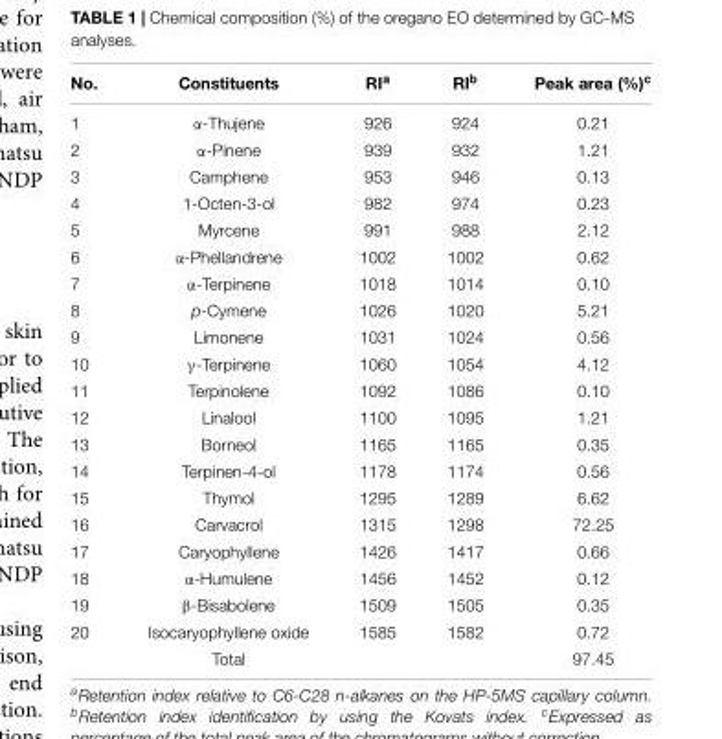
<table><thead><tr><td>No.</td><td>Constituents</td><td>RI<sup>a</sup></td><td>RI<sup>b</sup></td><td>Peak area (%)<sup>c</sup></td></tr></thead><tbody><tr><td>1</td><td>α-Thujene</td><td>926</td><td>924</td><td>0.21</td></tr><tr><td>2</td><td>α-Pinene</td><td>939</td><td>932</td><td>1.21</td></tr><tr><td>3</td><td>Camphene</td><td>953</td><td>946</td><td>0.13</td></tr><tr><td>4</td><td>1-Octen-3-ol</td><td>982</td><td>974</td><td>0.23</td></tr><tr><td>5</td><td>Myrcene</td><td>991</td><td>988</td><td>2.12</td></tr><tr><td>6</td><td>α-Phellandrene</td><td>1002</td><td>1002</td><td>0.62</td></tr><tr><td>7</td><td>α-Terpinene</td><td>1018</td><td>1014</td><td>0.10</td></tr><tr><td>8</td><td>p-Cymene</td><td>1026</td><td>1020</td><td>5.21</td></tr><tr><td>9</td><td>Limonene</td><td>1031</td><td>1024</td><td>0.56</td></tr><tr><td>10</td><td>γ-Terpinene</td><td>1060</td><td>1054</td><td>4.12</td></tr><tr><td>11</td><td>Terpinolene</td><td>1092</td><td>1086</td><td>0.10</td></tr><tr><td>12</td><td>Linalool</td><td>1100</td><td>1095</td><td>1.21</td></tr><tr><td>13</td><td>Borneol</td><td>1165</td><td>1165</td><td>0.35</td></tr><tr><td>14</td><td>Terpinen-4-ol</td><td>1178</td><td>1174</td><td>0.56</td></tr><tr><td>15</td><td>Thymol</td><td>1295</td><td>1289</td><td>6.62</td></tr><tr><td>16</td><td>Carvacrol</td><td>1315</td><td>1298</td><td>72.25</td></tr><tr><td>17</td><td>Caryophyllene</td><td>1426</td><td>1417</td><td>0.66</td></tr><tr><td>18</td><td>α-Humulene</td><td>1456</td><td>1452</td><td>0.12</td></tr><tr><td>19</td><td>β-Bisabolene</td><td>1509</td><td>1505</td><td>0.35</td></tr><tr><td rowspan="2">20</td><td>Isocaryophyllene oxide</td><td>1585</td><td>1582</td><td>0.72</td></tr><tr><td>Total</td><td></td><td></td><td>97.45</td></tr></tbody></table>